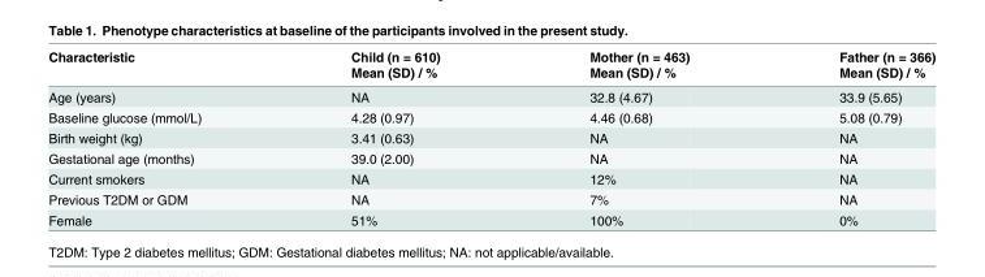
<table><thead><tr><td rowspan="2">Characteristic</td><td rowspan="2">Child (n = 610) Mean (SD) / %</td><td rowspan="2">Mother (n = 463) Mean (SD) / %</td><td rowspan="2">Father (n = 366) Mean (SD) / %</td></tr><tr></tr></thead><tbody><tr><td>Age (years)</td><td>NA</td><td>32.8 (4.67)</td><td>33.9 (5.65)</td></tr><tr><td>Baseline glucose (mmol/L)</td><td>4.28 (0.97)</td><td>4.46 (0.68)</td><td>5.08 (0.79)</td></tr><tr><td>Birth weight (kg)</td><td>3.41 (0.63)</td><td>NA</td><td>NA</td></tr><tr><td>Gestational age (months)</td><td>39.0 (2.00)</td><td>NA</td><td>NA</td></tr><tr><td>Current smokers</td><td>NA</td><td>12%</td><td>NA</td></tr><tr><td>Previous T2DM or GDM</td><td>NA</td><td>7%</td><td>NA</td></tr><tr><td>Female</td><td>51%</td><td>100%</td><td>0%</td></tr></tbody></table>